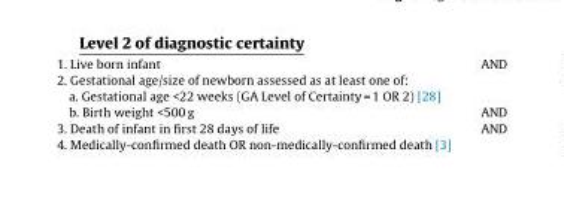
<table><tbody><tr><td>1. Live born infant</td><td>AND</td></tr><tr><td colspan="2">2. Gestational age/size of newborn assessed as at least one of:</td></tr><tr><td colspan="2">a. Gestational age &lt;22 weeks (GA Level of Certainty = 1 OR 2) [28]</td></tr><tr><td>b. Birth weight &lt;500 g</td><td>AND</td></tr><tr><td>3. Death of infant in first 28 days of life</td><td>AND</td></tr><tr><td>4. Medically-confirmed death OR non-medically-confirmed death [3]</td><td></td></tr></tbody></table>